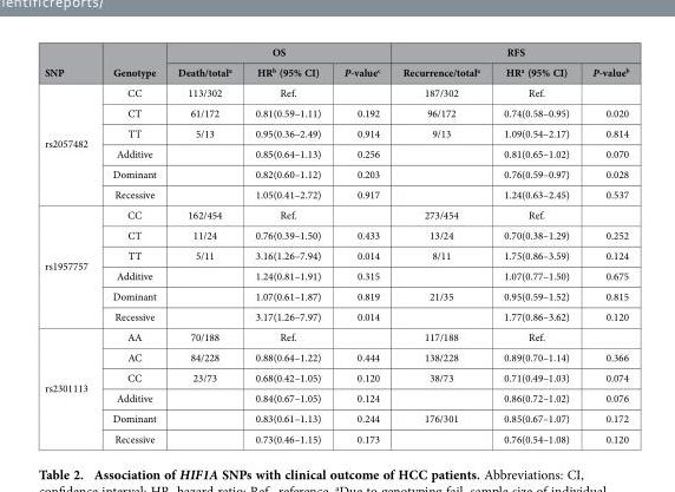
<table><thead><tr><td rowspan="2">SNP</td><td rowspan="2">Genotype</td><td colspan="3">OS</td><td colspan="3">RFS</td></tr><tr><td>Death/total<sup>a</sup></td><td>HR<sup>b</sup> (95% CI)</td><td>P-value<sup>c</sup></td><td>Recurrence/total<sup>a</sup></td><td>HR<sup>a</sup> (95% CI)</td><td>P-value<sup>b</sup></td></tr></thead><tbody><tr><td rowspan="6">rs2057482</td><td>CC</td><td>113/302</td><td>Ref.</td><td></td><td>187/302</td><td>Ref.</td><td></td></tr><tr><td>CT</td><td>61/172</td><td>0.81(0.59–1.11)</td><td>0.192</td><td>96/172</td><td>0.74(0.58–0.95)</td><td>0.020</td></tr><tr><td>TT</td><td>5/13</td><td>0.95(0.36–2.49)</td><td>0.914</td><td>9/13</td><td>1.09(0.54–2.17)</td><td>0.814</td></tr><tr><td>Additive</td><td></td><td>0.85(0.64–1.13)</td><td>0.256</td><td></td><td>0.81(0.65–1.02)</td><td>0.070</td></tr><tr><td>Dominant</td><td></td><td>0.82(0.60–1.12)</td><td>0.203</td><td></td><td>0.76(0.59–0.97)</td><td>0.028</td></tr><tr><td>Recessive</td><td></td><td>1.05(0.41–2.72)</td><td>0.917</td><td></td><td>1.24(0.63–2.45)</td><td>0.537</td></tr><tr><td rowspan="6">rs1957757</td><td>CC</td><td>162/454</td><td>Ref.</td><td></td><td>273/454</td><td>Ref.</td><td></td></tr><tr><td>CT</td><td>11/24</td><td>0.76(0.39–1.50)</td><td>0.433</td><td>13/24</td><td>0.70(0.38–1.29)</td><td>0.252</td></tr><tr><td>TT</td><td>5/11</td><td>3.16(1.26–7.94)</td><td>0.014</td><td>8/11</td><td>1.75(0.86–3.59)</td><td>0.124</td></tr><tr><td>Additive</td><td></td><td>1.24(0.81–1.91)</td><td>0.315</td><td></td><td>1.07(0.77–1.50)</td><td>0.675</td></tr><tr><td>Dominant</td><td></td><td>1.07(0.61–1.87)</td><td>0.819</td><td>21/35</td><td>0.95(0.59–1.52)</td><td>0.815</td></tr><tr><td>Recessive</td><td></td><td>3.17(1.26–7.97)</td><td>0.014</td><td></td><td>1.77(0.86–3.62)</td><td>0.120</td></tr><tr><td rowspan="6">rs2301113</td><td>AA</td><td>70/188</td><td>Ref.</td><td></td><td>117/188</td><td>Ref.</td><td></td></tr><tr><td>AC</td><td>84/228</td><td>0.88(0.64–1.22)</td><td>0.444</td><td>138/228</td><td>0.89(0.70–1.14)</td><td>0.366</td></tr><tr><td>CC</td><td>23/73</td><td>0.68(0.42–1.05)</td><td>0.120</td><td>38/73</td><td>0.71(0.49–1.03)</td><td>0.074</td></tr><tr><td>Additive</td><td></td><td>0.84(0.67–1.05)</td><td>0.124</td><td></td><td>0.86(0.72–1.02)</td><td>0.076</td></tr><tr><td>Dominant</td><td></td><td>0.83(0.61–1.13)</td><td>0.244</td><td>176/301</td><td>0.85(0.67–1.07)</td><td>0.172</td></tr><tr><td>Recessive</td><td></td><td>0.73(0.46–1.15)</td><td>0.173</td><td></td><td>0.76(0.54–1.08)</td><td>0.120</td></tr></tbody></table>